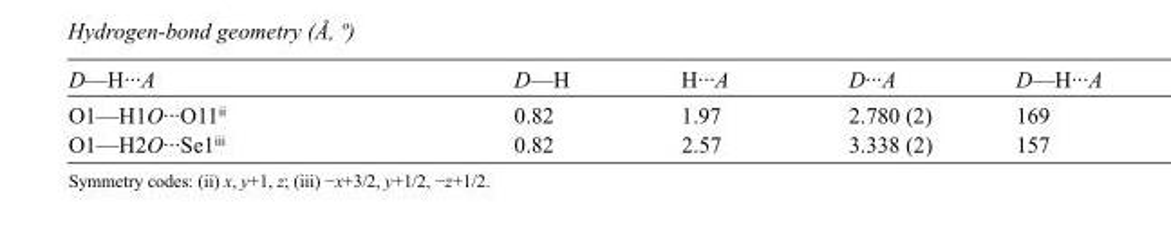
<table><tbody><tr><td>D—H···A</td><td>D—H</td><td>H···A</td><td>D···A</td><td>D—H···A</td></tr><tr><td>O1—H1O···O11<sup>ii</sup></td><td>0.82</td><td>1.97</td><td>2.780 (2)</td><td>169</td></tr><tr><td>O1—H2O···Se1<sup>iii</sup></td><td>0.82</td><td>2.57</td><td>3.338 (2)</td><td>157</td></tr></tbody></table>